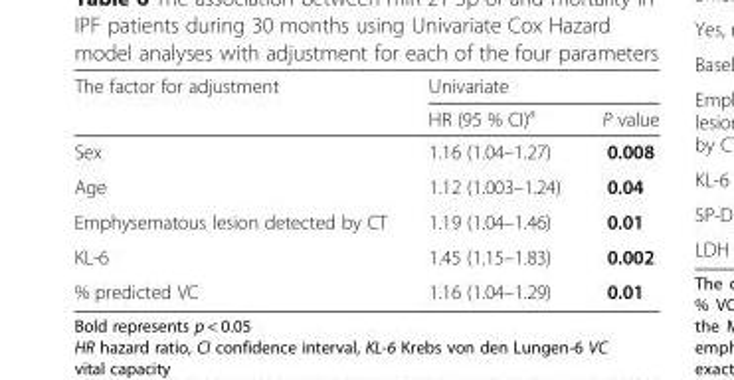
<table><thead><tr><td rowspan="2">The factor for adjustment</td><td colspan="2">Univariate</td></tr><tr><td>HR (95 % CI)<sup>a</sup></td><td>P value</td></tr></thead><tbody><tr><td>Sex</td><td>1.16 (1.04–1.27)</td><td>0.008</td></tr><tr><td>Age</td><td>1.12 (1.003–1.24)</td><td>0.04</td></tr><tr><td>Emphysematous lesion detected by CT</td><td>1.19 (1.04–1.46)</td><td>0.01</td></tr><tr><td>KL-6</td><td>1.45 (1.15–1.83)</td><td>0.002</td></tr><tr><td>% predicted VC</td><td>1.16 (1.04–1.29)</td><td>0.01</td></tr></tbody></table>